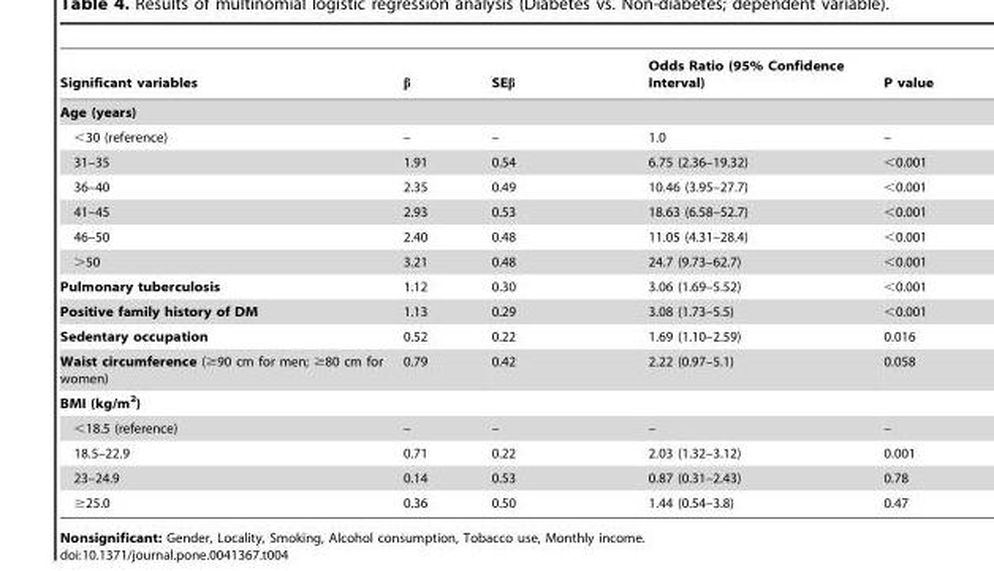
<table><thead><tr><td>Significant variables</td><td>β</td><td>SEβ</td><td>Odds Ratio (95% Confidence Interval)</td><td>P value</td></tr></thead><tbody><tr><td colspan="5">Age (years)</td></tr><tr><td>&lt;30 (reference)</td><td>–</td><td>–</td><td>1.0</td><td>–</td></tr><tr><td>31–35</td><td>1.91</td><td>0.54</td><td>6.75 (2.36–19.32)</td><td>&lt;0.001</td></tr><tr><td>36–40</td><td>2.35</td><td>0.49</td><td>10.46 (3.95–27.7)</td><td>&lt;0.001</td></tr><tr><td>41–45</td><td>2.93</td><td>0.53</td><td>18.63 (6.58–52.7)</td><td>&lt;0.001</td></tr><tr><td>46–50</td><td>2.40</td><td>0.48</td><td>11.05 (4.31–28.4)</td><td>&lt;0.001</td></tr><tr><td>&gt;50</td><td>3.21</td><td>0.48</td><td>24.7 (9.73–62.7)</td><td>&lt;0.001</td></tr><tr><td>Pulmonary tuberculosis</td><td>1.12</td><td>0.30</td><td>3.06 (1.69–5.52)</td><td>&lt;0.001</td></tr><tr><td>Positive family history of DM</td><td>1.13</td><td>0.29</td><td>3.08 (1.73–5.5)</td><td>&lt;0.001</td></tr><tr><td>Sedentary occupation</td><td>0.52</td><td>0.22</td><td>1.69 (1.10–2.59)</td><td>0.016</td></tr><tr><td>Waist circumference (≥90 cm for men; ≥80 cm for women)</td><td>0.79</td><td>0.42</td><td>2.22 (0.97–5.1)</td><td>0.058</td></tr><tr><td colspan="5">BMI (kg/m<sup>2</sup>)</td></tr><tr><td>&lt;18.5 (reference)</td><td>–</td><td>–</td><td>–</td><td>–</td></tr><tr><td>18.5–22.9</td><td>0.71</td><td>0.22</td><td>2.03 (1.32–3.12)</td><td>0.001</td></tr><tr><td>23–24.9</td><td>0.14</td><td>0.53</td><td>0.87 (0.31–2.43)</td><td>0.78</td></tr><tr><td>≥25.0</td><td>0.36</td><td>0.50</td><td>1.44 (0.54–3.8)</td><td>0.47</td></tr></tbody></table>